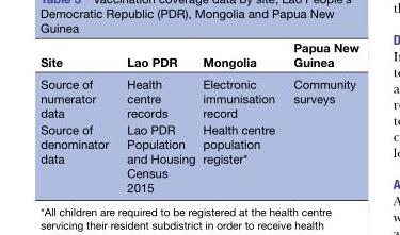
<table><thead><tr><td>Site</td><td>Lao PDR</td><td>Mongolia</td><td>Papua New Guinea</td></tr></thead><tbody><tr><td>Source of numerator data</td><td>Health centre records</td><td>Electronic immunisation record</td><td rowspan="2">Community surveys</td></tr><tr><td>Source of denominator data</td><td>Lao PDR Population and Housing Census 2015</td><td>Health centre population register*</td></tr></tbody></table>